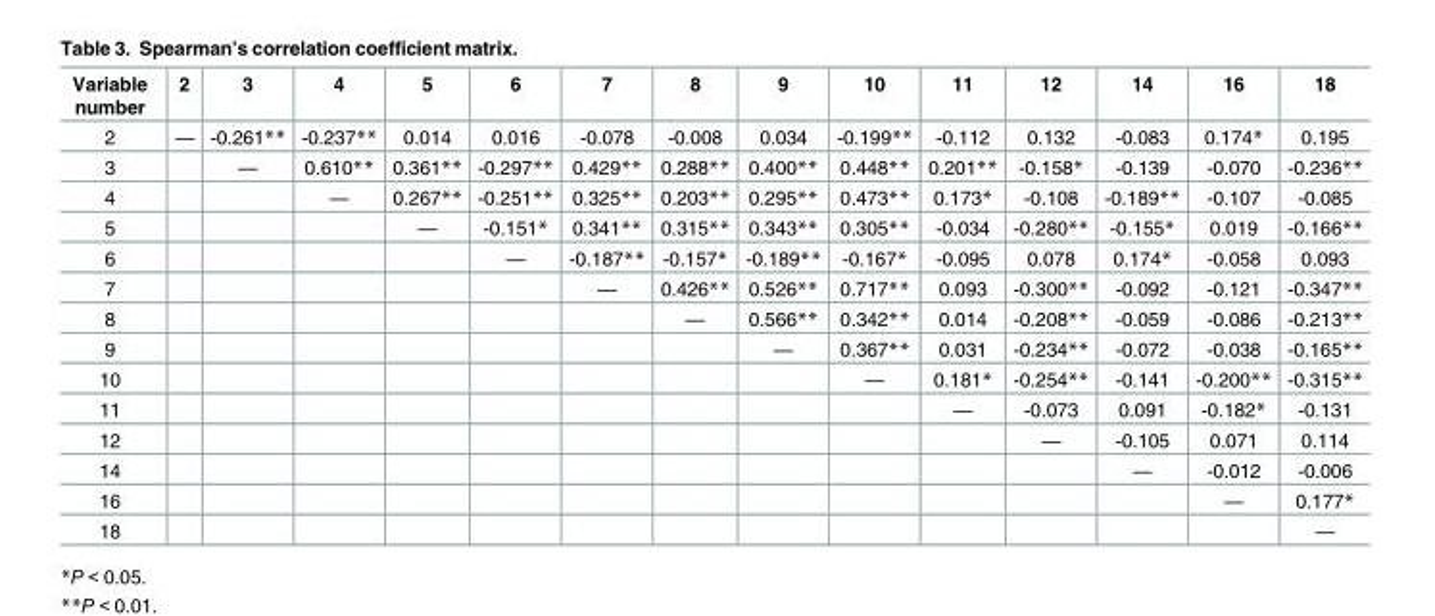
<table><tbody><tr><td>Variable number</td><td>2</td><td>3</td><td>4</td><td>5</td><td>6</td><td>7</td><td>8</td><td>9</td><td>10</td><td>11</td><td>12</td><td>14</td><td>16</td><td>18</td></tr><tr><td>2</td><td>—</td><td>-0.261**</td><td>-0.237**</td><td>0.014</td><td>0.016</td><td>-0.078</td><td>-0.008</td><td>0.034</td><td>-0.199**</td><td>-0.112</td><td>0.132</td><td>-0.083</td><td>0.174*</td><td>0.195</td></tr><tr><td>3</td><td></td><td>—</td><td>0.610**</td><td>0.361**</td><td>-0.297**</td><td>0.429**</td><td>0.288**</td><td>0.400**</td><td>0.448**</td><td>0.201**</td><td>-0.158*</td><td>-0.139</td><td>-0.070</td><td>-0.236**</td></tr><tr><td>4</td><td></td><td></td><td>—</td><td>0.267**</td><td>-0.251**</td><td>0.325**</td><td>0.203**</td><td>0.295**</td><td>0.473**</td><td>0.173*</td><td>-0.108</td><td>-0.189**</td><td>-0.107</td><td>-0.085</td></tr><tr><td>5</td><td></td><td></td><td></td><td>—</td><td>-0.151*</td><td>0.341**</td><td>0.315**</td><td>0.343**</td><td>0.305**</td><td>-0.034</td><td>-0.280**</td><td>-0.155*</td><td>0.019</td><td>-0.166**</td></tr><tr><td>6</td><td></td><td></td><td></td><td></td><td>—</td><td>-0.187**</td><td>-0.157*</td><td>-0.189**</td><td>-0.167*</td><td>-0.095</td><td>0.078</td><td>0.174*</td><td>-0.058</td><td>0.093</td></tr><tr><td>7</td><td></td><td></td><td></td><td></td><td></td><td>—</td><td>0.426**</td><td>0.526**</td><td>0.717**</td><td>0.093</td><td>-0.300**</td><td>-0.092</td><td>-0.121</td><td>-0.347**</td></tr><tr><td>8</td><td></td><td></td><td></td><td></td><td></td><td></td><td>—</td><td>0.566**</td><td>0.342**</td><td>0.014</td><td>-0.208**</td><td>-0.059</td><td>-0.086</td><td>-0.213**</td></tr><tr><td>9</td><td></td><td></td><td></td><td></td><td></td><td></td><td></td><td>—</td><td>0.367**</td><td>0.031</td><td>-0.234**</td><td>-0.072</td><td>-0.038</td><td>-0.165**</td></tr><tr><td>10</td><td></td><td></td><td></td><td></td><td></td><td></td><td></td><td></td><td>—</td><td>0.181*</td><td>-0.254**</td><td>-0.141</td><td>-0.200**</td><td>-0.315**</td></tr><tr><td>11</td><td></td><td></td><td></td><td></td><td></td><td></td><td></td><td></td><td></td><td>—</td><td>-0.073</td><td>0.091</td><td>-0.182*</td><td>-0.131</td></tr><tr><td>12</td><td></td><td></td><td></td><td></td><td></td><td></td><td></td><td></td><td></td><td></td><td>—</td><td>-0.105</td><td>0.071</td><td>0.114</td></tr><tr><td>14</td><td></td><td></td><td></td><td></td><td></td><td></td><td></td><td></td><td></td><td></td><td></td><td>—</td><td>-0.012</td><td>-0.006</td></tr><tr><td>16</td><td></td><td></td><td></td><td></td><td></td><td></td><td></td><td></td><td></td><td></td><td></td><td></td><td>—</td><td>0.177*</td></tr><tr><td>18</td><td></td><td></td><td></td><td></td><td></td><td></td><td></td><td></td><td></td><td></td><td></td><td></td><td></td><td>—</td></tr></tbody></table>